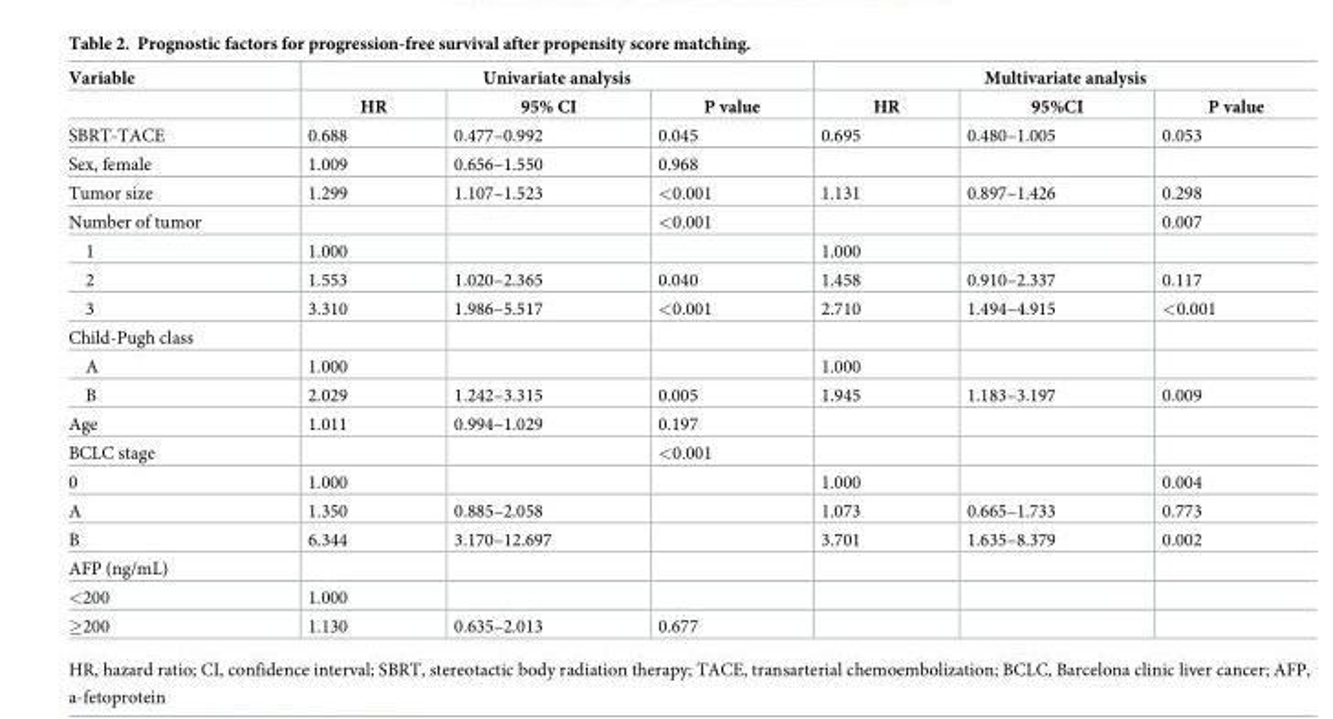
<table><thead><tr><td rowspan="2">Variable</td><td colspan="3">Univariate analysis</td><td colspan="3">Multivariate analysis</td></tr><tr><td>HR</td><td>95% CI</td><td>P value</td><td>HR</td><td>95%CI</td><td>P value</td></tr></thead><tbody><tr><td>SBRT-TACE</td><td>0.688</td><td>0.477–0.992</td><td>0.045</td><td>0.695</td><td>0.480–1.005</td><td>0.053</td></tr><tr><td>Sex, female</td><td>1.009</td><td>0.656–1.550</td><td>0.968</td><td></td><td></td><td></td></tr><tr><td>Tumor size</td><td>1.299</td><td>1.107–1.523</td><td>&lt;0.001</td><td>1.131</td><td>0.897–1.426</td><td>0.298</td></tr><tr><td>Number of tumor</td><td></td><td></td><td>&lt;0.001</td><td></td><td></td><td>0.007</td></tr><tr><td>1</td><td>1.000</td><td></td><td></td><td>1.000</td><td></td><td></td></tr><tr><td>2</td><td>1.553</td><td>1.020–2.365</td><td>0.040</td><td>1.458</td><td>0.910–2.337</td><td>0.117</td></tr><tr><td>3</td><td>3.310</td><td>1.986–5.517</td><td>&lt;0.001</td><td>2.710</td><td>1.494–4.915</td><td>&lt;0.001</td></tr><tr><td colspan="7">Child-Pugh class</td></tr><tr><td>A</td><td>1.000</td><td></td><td></td><td>1.000</td><td></td><td></td></tr><tr><td>B</td><td>2.029</td><td>1.242–3.315</td><td>0.005</td><td>1.945</td><td>1.183–3.197</td><td>0.009</td></tr><tr><td>Age</td><td>1.011</td><td>0.994–1.029</td><td>0.197</td><td></td><td></td><td></td></tr><tr><td>BCLC stage</td><td></td><td></td><td>&lt;0.001</td><td></td><td></td><td></td></tr><tr><td>0</td><td>1.000</td><td></td><td></td><td>1.000</td><td></td><td>0.004</td></tr><tr><td>A</td><td>1.350</td><td>0.885–2.058</td><td></td><td>1.073</td><td>0.665–1.733</td><td>0.773</td></tr><tr><td>B</td><td>6.344</td><td>3.170–12.697</td><td></td><td>3.701</td><td>1.635–8.379</td><td>0.002</td></tr><tr><td colspan="7">AFP (ng/mL)</td></tr><tr><td>&lt;200</td><td>1.000</td><td></td><td></td><td></td><td></td><td></td></tr><tr><td>≥200</td><td>1.130</td><td>0.635–2.013</td><td>0.677</td><td></td><td></td><td></td></tr></tbody></table>